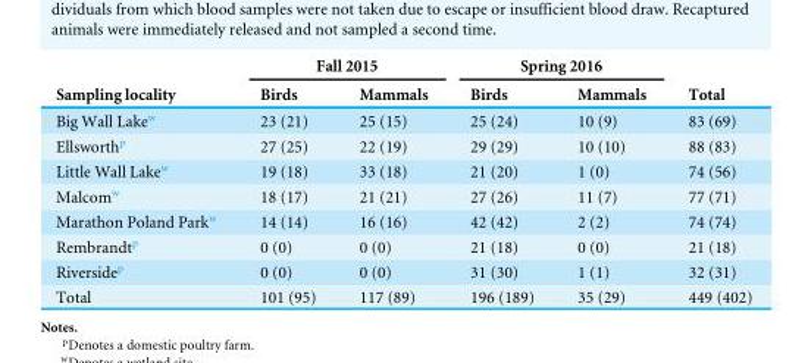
<table><thead><tr><td rowspan="2">Sampling locality</td><td colspan="2">Fall 2015</td><td colspan="2">Spring 2016</td><td rowspan="2">Total</td></tr><tr><td>Birds</td><td>Mammals</td><td>Birds</td><td>Mammals</td></tr></thead><tbody><tr><td>Big Wall Lake<sup>w</sup></td><td>23 (21)</td><td>25 (15)</td><td>25 (24)</td><td>10 (9)</td><td>83 (69)</td></tr><tr><td>Ellsworth<sup>p</sup></td><td>27 (25)</td><td>22 (19)</td><td>29 (29)</td><td>10 (10)</td><td>88 (83)</td></tr><tr><td>Little Wall Lake<sup>w</sup></td><td>19 (18)</td><td>33 (18)</td><td>21 (20)</td><td>1 (0)</td><td>74 (56)</td></tr><tr><td>Malcom<sup>w</sup></td><td>18 (17)</td><td>21 (21)</td><td>27 (26)</td><td>11 (7)</td><td>77 (71)</td></tr><tr><td>Marathon Poland Park<sup>w</sup></td><td>14 (14)</td><td>16 (16)</td><td>42 (42)</td><td>2 (2)</td><td>74 (74)</td></tr><tr><td>Rembrandt<sup>p</sup></td><td>0 (0)</td><td>0 (0)</td><td>21 (18)</td><td>0 (0)</td><td>21 (18)</td></tr><tr><td>Riverside<sup>p</sup></td><td>0 (0)</td><td>0 (0)</td><td>31 (30)</td><td>1 (1)</td><td>32 (31)</td></tr><tr><td>Total</td><td>101 (95)</td><td>117 (89)</td><td>196 (189)</td><td>35 (29)</td><td>449 (402)</td></tr></tbody></table>